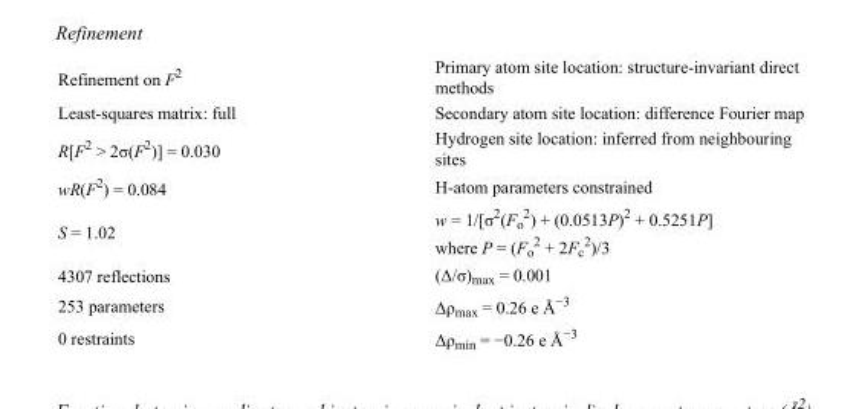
<table><tbody><tr><td>Refinement on F<sup>2</sup></td><td>Primary atom site location: structure-invariant direct methods</td></tr><tr><td>Least-squares matrix: full</td><td>Secondary atom site location: difference Fourier map</td></tr><tr><td>R[F<sup>2</sup> &gt; 2σ(F<sup>2</sup>)] = 0.030</td><td>Hydrogen site location: inferred from neighbouring sites</td></tr><tr><td>wR(F<sup>2</sup>) = 0.084</td><td>H-atom parameters constrained</td></tr><tr><td>S = 1.02</td><td>w = 1/[σ<sup>2</sup>(F<sub>o</sub> <sup>2</sup>) + (0.0513P)<sup>2</sup> + 0.5251P] where P = (F<sub>o</sub> <sup>2</sup> + 2F<sub>c</sub> <sup>2</sup>)/3</td></tr><tr><td>4307 reflections</td><td>(Δ/σ)<sub>max</sub> = 0.001</td></tr><tr><td>253 parameters</td><td>Δρ<sub>max</sub> = 0.26 e Å<sup>−3</sup></td></tr><tr><td>0 restraints</td><td>Δρ<sub>min</sub> = −0.26 e Å<sup>−3</sup></td></tr></tbody></table>